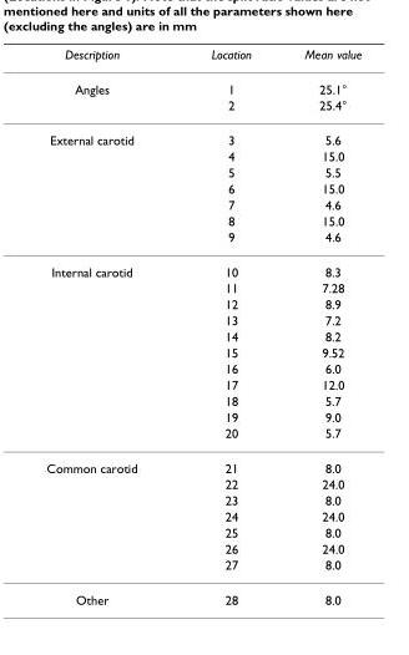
<table><thead><tr><td>Description</td><td>Location</td><td>Mean value</td></tr></thead><tbody><tr><td rowspan="2">Angles</td><td>1</td><td>25.1°</td></tr><tr><td>2</td><td>25.4°</td></tr><tr><td rowspan="7">External carotid</td><td>3</td><td>5.6</td></tr><tr><td>4</td><td>15.0</td></tr><tr><td>5</td><td>5.5</td></tr><tr><td>6</td><td>15.0</td></tr><tr><td>7</td><td>4.6</td></tr><tr><td>8</td><td>15.0</td></tr><tr><td>9</td><td>4.6</td></tr><tr><td rowspan="11">Internal carotid</td><td>10</td><td>8.3</td></tr><tr><td>11</td><td>7.28</td></tr><tr><td>12</td><td>8.9</td></tr><tr><td>13</td><td>7.2</td></tr><tr><td>14</td><td>8.2</td></tr><tr><td>15</td><td>9.52</td></tr><tr><td>16</td><td>6.0</td></tr><tr><td>17</td><td>12.0</td></tr><tr><td>18</td><td>5.7</td></tr><tr><td>19</td><td>9.0</td></tr><tr><td>20</td><td>5.7</td></tr><tr><td rowspan="7">Common carotid</td><td>21</td><td>8.0</td></tr><tr><td>22</td><td>24.0</td></tr><tr><td>23</td><td>8.0</td></tr><tr><td>24</td><td>24.0</td></tr><tr><td>25</td><td>8.0</td></tr><tr><td>26</td><td>24.0</td></tr><tr><td>27</td><td>8.0</td></tr><tr><td>Other</td><td>28</td><td>8.0</td></tr></tbody></table>